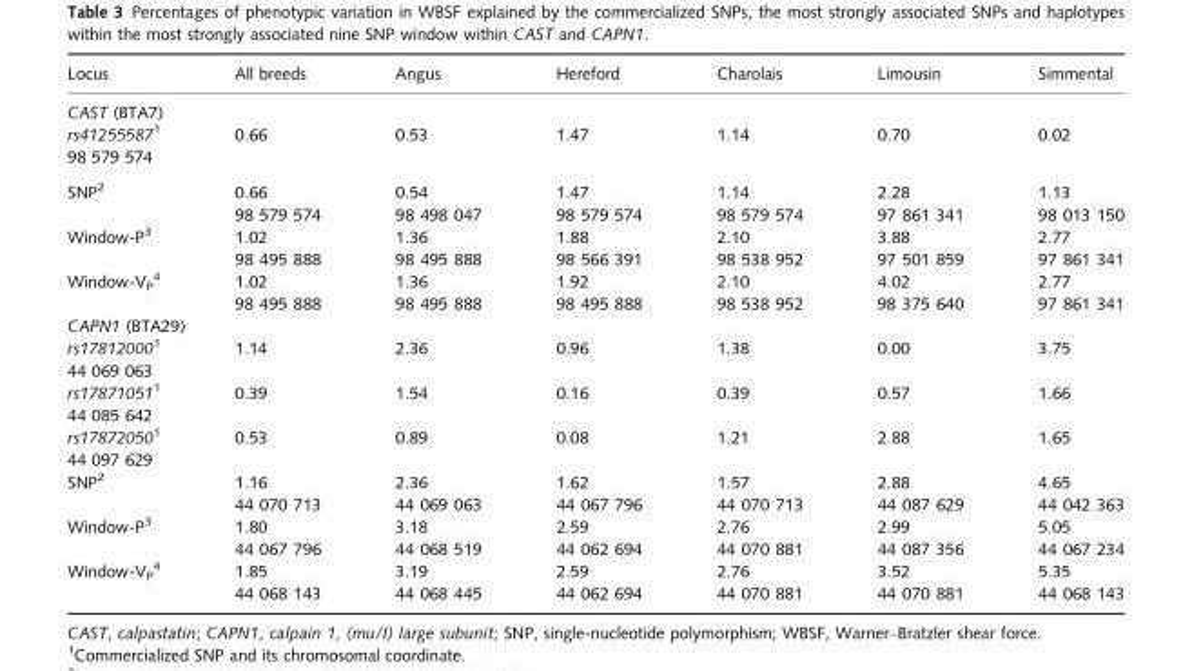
<table><thead><tr><td>Locus</td><td>All breeds</td><td>Angus</td><td>Hereford</td><td>Charolais</td><td>Limousin</td><td>Simmental</td></tr></thead><tbody><tr><td colspan="7">CAST (BTA7)</td></tr><tr><td>rs41255587<sup>1</sup> 98 579 574</td><td>0.66</td><td>0.53</td><td>1.47</td><td>1.14</td><td>0.70</td><td>0.02</td></tr><tr><td>SNP<sup>2</sup></td><td>0.66 98 579 574</td><td>0.54 98 498 047</td><td>1.47 98 579 574</td><td>1.14 98 579 574</td><td>2.28 97 861 341</td><td>1.13 98 013 150</td></tr><tr><td>Window-P<sup>3</sup></td><td>1.02 98 495 888</td><td>1.36 98 495 888</td><td>1.88 98 566 391</td><td>2.10 98 538 952</td><td>3.88 97 501 859</td><td>2.77 97 861 341</td></tr><tr><td>Window-V<sub>P</sub> <sup>4</sup></td><td>1.02 98 495 888</td><td>1.36 98 495 888</td><td>1.92 98 495 888</td><td>2.10 98 538 952</td><td>4.02 98 375 640</td><td>2.77 97 861 341</td></tr><tr><td colspan="7">CAPN1 (BTA29)</td></tr><tr><td>rs17812000<sup>1</sup> 44 069 063</td><td>1.14</td><td>2.36</td><td>0.96</td><td>1.38</td><td>0.00</td><td>3.75</td></tr><tr><td>rs17871051<sup>1</sup> 44 085 642</td><td>0.39</td><td>1.54</td><td>0.16</td><td>0.39</td><td>0.57</td><td>1.66</td></tr><tr><td>rs17872050<sup>1</sup> 44 097 629</td><td>0.53</td><td>0.89</td><td>0.08</td><td>1.21</td><td>2.88</td><td>1.65</td></tr><tr><td>SNP<sup>2</sup></td><td>1.16 44 070 713</td><td>2.36 44 069 063</td><td>1.62 44 067 796</td><td>1.57 44 070 713</td><td>2.88 44 087 629</td><td>4.65 44 042 363</td></tr><tr><td>Window-P<sup>3</sup></td><td>1.80 44 067 796</td><td>3.18 44 068 519</td><td>2.59 44 062 694</td><td>2.76 44 070 881</td><td>2.99 44 087 356</td><td>5.05 44 067 234</td></tr><tr><td>Window-V<sub>P</sub> <sup>4</sup></td><td>1.85 44 068 143</td><td>3.19 44 068 445</td><td>2.59 44 062 694</td><td>2.76 44 070 881</td><td>3.52 44 070 881</td><td>5.35 44 068 143</td></tr></tbody></table>